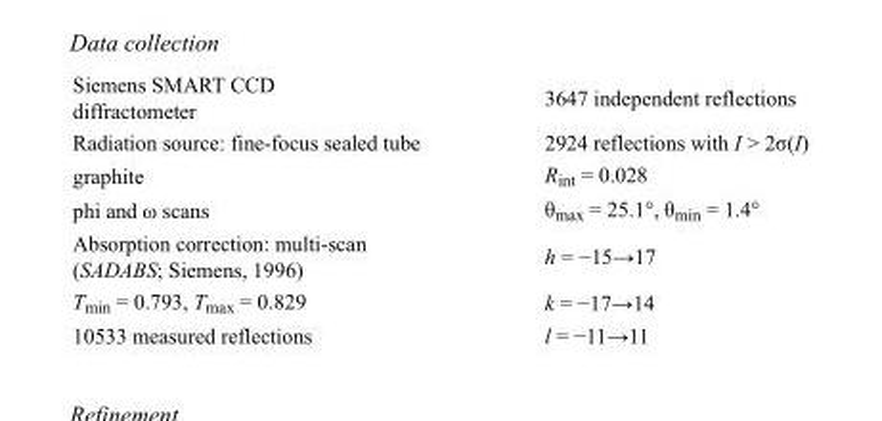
<table><tbody><tr><td>Siemens SMART CCD diffractometer</td><td>3647 independent reflections</td></tr><tr><td>Radiation source: fine-focus sealed tube</td><td>2924 reflections with I &gt; 2σ(I)</td></tr><tr><td>graphite</td><td>R<sub>int</sub> = 0.028</td></tr><tr><td>phi and ω scans</td><td>θ<sub>max</sub> = 25.1°, θ<sub>min</sub> = 1.4°</td></tr><tr><td>Absorption correction: multi-scan (SADABS; Siemens, 1996)</td><td>h = −15→17</td></tr><tr><td>T<sub>min</sub> = 0.793, T<sub>max</sub> = 0.829</td><td>k = −17→14</td></tr><tr><td>10533 measured reflections</td><td>l = −11→11</td></tr></tbody></table>